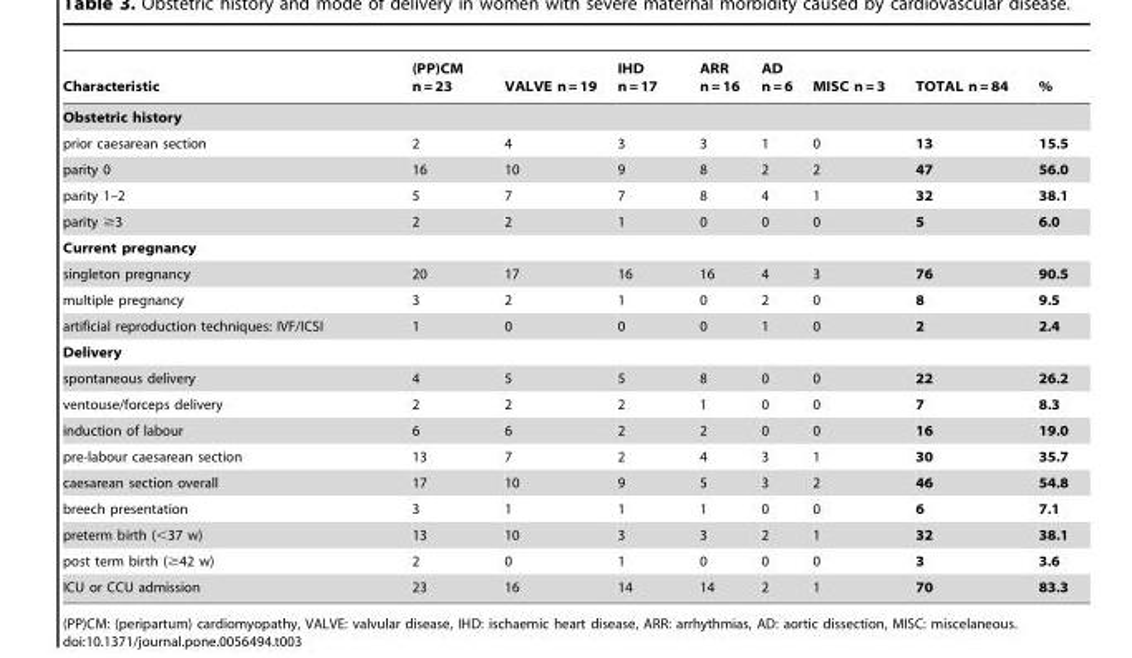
<table><thead><tr><td>Characteristic</td><td>(PP)CM n = 23</td><td>VALVE n = 19</td><td>IHD n = 17</td><td>ARR n = 16</td><td>AD n = 6</td><td>MISC n = 3</td><td>TOTAL n = 84</td><td>%</td></tr></thead><tbody><tr><td colspan="9">Obstetric history</td></tr><tr><td>prior caesarean section</td><td>2</td><td>4</td><td>3</td><td>3</td><td>1</td><td>0</td><td>13</td><td>15.5</td></tr><tr><td>parity 0</td><td>16</td><td>10</td><td>9</td><td>8</td><td>2</td><td>2</td><td>47</td><td>56.0</td></tr><tr><td>parity 1–2</td><td>5</td><td>7</td><td>7</td><td>8</td><td>4</td><td>1</td><td>32</td><td>38.1</td></tr><tr><td>parity ≥3</td><td>2</td><td>2</td><td>1</td><td>0</td><td>0</td><td>0</td><td>5</td><td>6.0</td></tr><tr><td colspan="9">Current pregnancy</td></tr><tr><td>singleton pregnancy</td><td>20</td><td>17</td><td>16</td><td>16</td><td>4</td><td>3</td><td>76</td><td>90.5</td></tr><tr><td>multiple pregnancy</td><td>3</td><td>2</td><td>1</td><td>0</td><td>2</td><td>0</td><td>8</td><td>9.5</td></tr><tr><td>artificial reproduction techniques: IVF/ICSI</td><td>1</td><td>0</td><td>0</td><td>0</td><td>1</td><td>0</td><td>2</td><td>2.4</td></tr><tr><td colspan="9">Delivery</td></tr><tr><td>spontaneous delivery</td><td>4</td><td>5</td><td>5</td><td>8</td><td>0</td><td>0</td><td>22</td><td>26.2</td></tr><tr><td>ventouse/forceps delivery</td><td>2</td><td>2</td><td>2</td><td>1</td><td>0</td><td>0</td><td>7</td><td>8.3</td></tr><tr><td>induction of labour</td><td>6</td><td>6</td><td>2</td><td>2</td><td>0</td><td>0</td><td>16</td><td>19.0</td></tr><tr><td>pre-labour caesarean section</td><td>13</td><td>7</td><td>2</td><td>4</td><td>3</td><td>1</td><td>30</td><td>35.7</td></tr><tr><td>caesarean section overall</td><td>17</td><td>10</td><td>9</td><td>5</td><td>3</td><td>2</td><td>46</td><td>54.8</td></tr><tr><td>breech presentation</td><td>3</td><td>1</td><td>1</td><td>1</td><td>0</td><td>0</td><td>6</td><td>7.1</td></tr><tr><td>preterm birth (&lt;37 w)</td><td>13</td><td>10</td><td>3</td><td>3</td><td>2</td><td>1</td><td>32</td><td>38.1</td></tr><tr><td>post term birth (≥42 w)</td><td>2</td><td>0</td><td>1</td><td>0</td><td>0</td><td>0</td><td>3</td><td>3.6</td></tr><tr><td>ICU or CCU admission</td><td>23</td><td>16</td><td>14</td><td>14</td><td>2</td><td>1</td><td>70</td><td>83.3</td></tr></tbody></table>